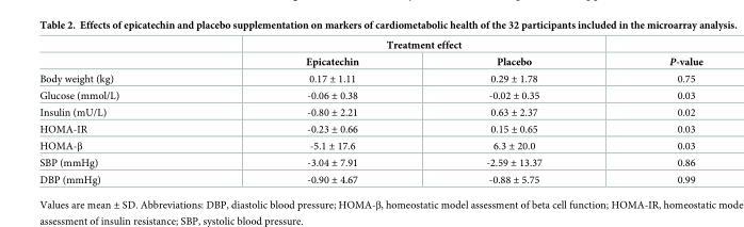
<table><thead><tr><td rowspan="2"></td><td colspan="2">Treatment effect</td><td rowspan="2">P-value</td></tr><tr><td>Epicatechin</td><td>Placebo</td></tr></thead><tbody><tr><td>Body weight (kg)</td><td>0.17 ± 1.11</td><td>0.29 ± 1.78</td><td>0.75</td></tr><tr><td>Glucose (mmol/L)</td><td>-0.06 ± 0.38</td><td>-0.02 ± 0.35</td><td>0.03</td></tr><tr><td>Insulin (mU/L)</td><td>-0.80 ± 2.21</td><td>0.63 ± 2.37</td><td>0.02</td></tr><tr><td>HOMA-IR</td><td>-0.23 ± 0.66</td><td>0.15 ± 0.65</td><td>0.03</td></tr><tr><td>HOMA-β</td><td>-5.1 ± 17.6</td><td>6.3 ± 20.0</td><td>0.03</td></tr><tr><td>SBP (mmHg)</td><td>-3.04 ± 7.91</td><td>-2.59 ± 13.37</td><td>0.86</td></tr><tr><td>DBP (mmHg)</td><td>-0.90 ± 4.67</td><td>-0.88 ± 5.75</td><td>0.99</td></tr></tbody></table>